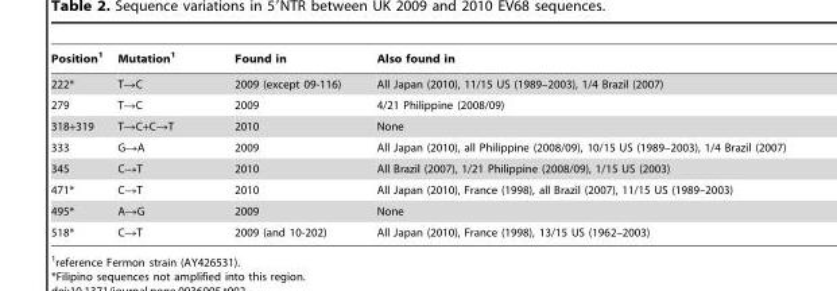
<table><thead><tr><td>Position<sup>1</sup></td><td>Mutation<sup>1</sup></td><td>Found in</td><td>Also found in</td></tr></thead><tbody><tr><td>222*</td><td>T→C</td><td>2009 (except 09-116)</td><td>All Japan (2010), 11/15 US (1989–2003), 1/4 Brazil (2007)</td></tr><tr><td>279</td><td>T→C</td><td>2009</td><td>4/21 Philippine (2008/09)</td></tr><tr><td>318+319</td><td>T→C+C→T</td><td>2010</td><td>None</td></tr><tr><td>333</td><td>G→A</td><td>2009</td><td>All Japan (2010), all Philippine (2008/09), 10/15 US (1989–2003), 1/4 Brazil (2007)</td></tr><tr><td>345</td><td>C→T</td><td>2010</td><td>All Brazil (2007), 1/21 Philippine (2008/09), 1/15 US (2003)</td></tr><tr><td>471*</td><td>C→T</td><td>2010</td><td>All Japan (2010), France (1998), all Brazil (2007), 11/15 US (1989–2003)</td></tr><tr><td>495*</td><td>A→G</td><td>2009</td><td>None</td></tr><tr><td>518*</td><td>C→T</td><td>2009 (and 10-202)</td><td>All Japan (2010), France (1998), 13/15 US (1962–2003)</td></tr></tbody></table>